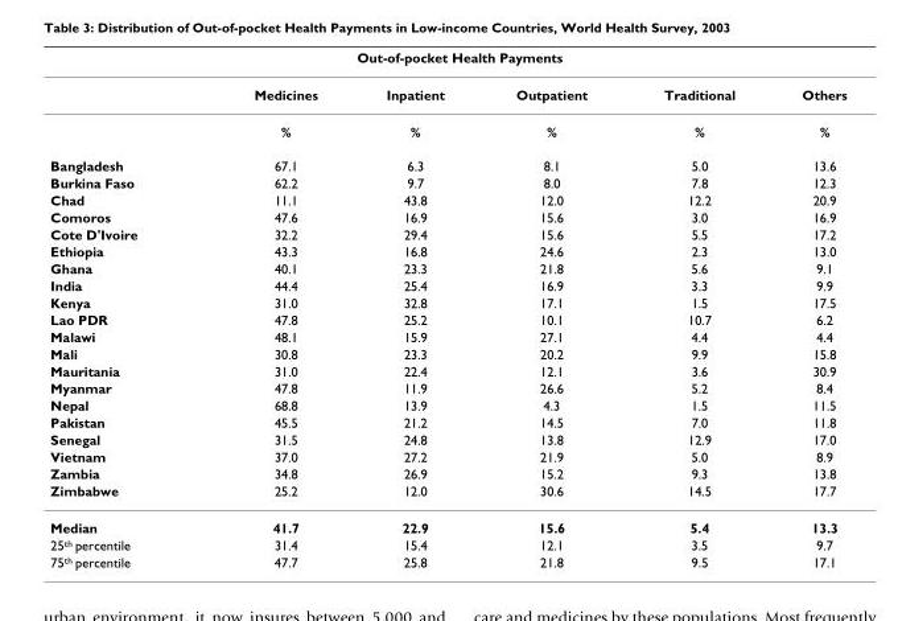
<table><thead><tr><td colspan="6">Out-of-pocket Health Payments</td></tr><tr><td></td><td>Medicines</td><td>Inpatient</td><td>Outpatient</td><td>Traditional</td><td>Others</td></tr></thead><tbody><tr><td></td><td>%</td><td>%</td><td>%</td><td>%</td><td>%</td></tr><tr><td>Bangladesh</td><td>67.1</td><td>6.3</td><td>8.1</td><td>5.0</td><td>13.6</td></tr><tr><td>Burkina Faso</td><td>62.2</td><td>9.7</td><td>8.0</td><td>7.8</td><td>12.3</td></tr><tr><td>Chad</td><td>11.1</td><td>43.8</td><td>12.0</td><td>12.2</td><td>20.9</td></tr><tr><td>Comoros</td><td>47.6</td><td>16.9</td><td>15.6</td><td>3.0</td><td>16.9</td></tr><tr><td>Cote D&#x27;Ivoire</td><td>32.2</td><td>29.4</td><td>15.6</td><td>5.5</td><td>17.2</td></tr><tr><td>Ethiopia</td><td>43.3</td><td>16.8</td><td>24.6</td><td>2.3</td><td>13.0</td></tr><tr><td>Ghana</td><td>40.1</td><td>23.3</td><td>21.8</td><td>5.6</td><td>9.1</td></tr><tr><td>India</td><td>44.4</td><td>25.4</td><td>16.9</td><td>3.3</td><td>9.9</td></tr><tr><td>Kenya</td><td>31.0</td><td>32.8</td><td>17.1</td><td>1.5</td><td>17.5</td></tr><tr><td>Lao PDR</td><td>47.8</td><td>25.2</td><td>10.1</td><td>10.7</td><td>6.2</td></tr><tr><td>Malawi</td><td>48.1</td><td>15.9</td><td>27.1</td><td>4.4</td><td>4.4</td></tr><tr><td>Mali</td><td>30.8</td><td>23.3</td><td>20.2</td><td>9.9</td><td>15.8</td></tr><tr><td>Mauritania</td><td>31.0</td><td>22.4</td><td>12.1</td><td>3.6</td><td>30.9</td></tr><tr><td>Myanmar</td><td>47.8</td><td>11.9</td><td>26.6</td><td>5.2</td><td>8.4</td></tr><tr><td>Nepal</td><td>68.8</td><td>13.9</td><td>4.3</td><td>1.5</td><td>11.5</td></tr><tr><td>Pakistan</td><td>45.5</td><td>21.2</td><td>14.5</td><td>7.0</td><td>11.8</td></tr><tr><td>Senegal</td><td>31.5</td><td>24.8</td><td>13.8</td><td>12.9</td><td>17.0</td></tr><tr><td>Vietnam</td><td>37.0</td><td>27.2</td><td>21.9</td><td>5.0</td><td>8.9</td></tr><tr><td>Zambia</td><td>34.8</td><td>26.9</td><td>15.2</td><td>9.3</td><td>13.8</td></tr><tr><td>Zimbabwe</td><td>25.2</td><td>12.0</td><td>30.6</td><td>14.5</td><td>17.7</td></tr><tr><td>Median</td><td>41.7</td><td>22.9</td><td>15.6</td><td>5.4</td><td>13.3</td></tr><tr><td>25<sup>th</sup> percentile</td><td>31.4</td><td>15.4</td><td>12.1</td><td>3.5</td><td>9.7</td></tr><tr><td>75<sup>th</sup> percentile</td><td>47.7</td><td>25.8</td><td>21.8</td><td>9.5</td><td>17.1</td></tr></tbody></table>